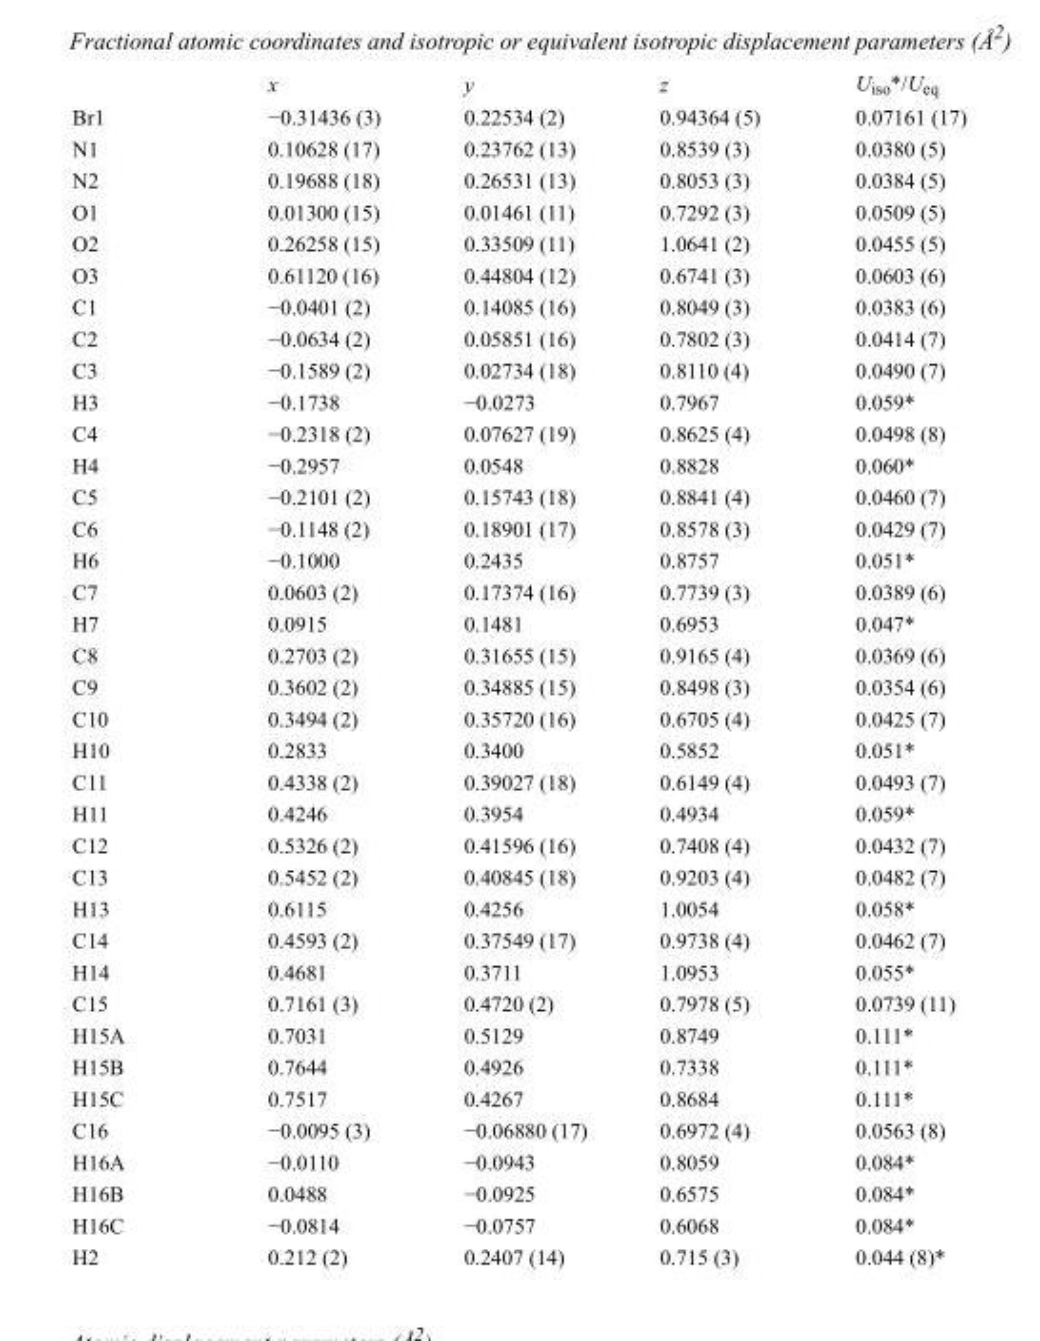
<table><thead><tr><td></td><td>x</td><td>y</td><td>z</td><td>U<sub>iso</sub>*/U<sub>eq</sub></td></tr></thead><tbody><tr><td>Br1</td><td>−0.31436 (3)</td><td>0.22534 (2)</td><td>0.94364 (5)</td><td>0.07161 (17)</td></tr><tr><td>N1</td><td>0.10628 (17)</td><td>0.23762 (13)</td><td>0.8539 (3)</td><td>0.0380 (5)</td></tr><tr><td>N2</td><td>0.19688 (18)</td><td>0.26531 (13)</td><td>0.8053 (3)</td><td>0.0384 (5)</td></tr><tr><td>O1</td><td>0.01300 (15)</td><td>0.01461 (11)</td><td>0.7292 (3)</td><td>0.0509 (5)</td></tr><tr><td>O2</td><td>0.26258 (15)</td><td>0.33509 (11)</td><td>1.0641 (2)</td><td>0.0455 (5)</td></tr><tr><td>O3</td><td>0.61120 (16)</td><td>0.44804 (12)</td><td>0.6741 (3)</td><td>0.0603 (6)</td></tr><tr><td>C1</td><td>−0.0401 (2)</td><td>0.14085 (16)</td><td>0.8049 (3)</td><td>0.0383 (6)</td></tr><tr><td>C2</td><td>−0.0634 (2)</td><td>0.05851 (16)</td><td>0.7802 (3)</td><td>0.0414 (7)</td></tr><tr><td>C3</td><td>−0.1589 (2)</td><td>0.02734 (18)</td><td>0.8110 (4)</td><td>0.0490 (7)</td></tr><tr><td>H3</td><td>−0.1738</td><td>−0.0273</td><td>0.7967</td><td>0.059*</td></tr><tr><td>C4</td><td>−0.2318 (2)</td><td>0.07627 (19)</td><td>0.8625 (4)</td><td>0.0498 (8)</td></tr><tr><td>H4</td><td>−0.2957</td><td>0.0548</td><td>0.8828</td><td>0.060*</td></tr><tr><td>C5</td><td>−0.2101 (2)</td><td>0.15743 (18)</td><td>0.8841 (4)</td><td>0.0460 (7)</td></tr><tr><td>C6</td><td>−0.1148 (2)</td><td>0.18901 (17)</td><td>0.8578 (3)</td><td>0.0429 (7)</td></tr><tr><td>H6</td><td>−0.1000</td><td>0.2435</td><td>0.8757</td><td>0.051*</td></tr><tr><td>C7</td><td>0.0603 (2)</td><td>0.17374 (16)</td><td>0.7739 (3)</td><td>0.0389 (6)</td></tr><tr><td>H7</td><td>0.0915</td><td>0.1481</td><td>0.6953</td><td>0.047*</td></tr><tr><td>C8</td><td>0.2703 (2)</td><td>0.31655 (15)</td><td>0.9165 (4)</td><td>0.0369 (6)</td></tr><tr><td>C9</td><td>0.3602 (2)</td><td>0.34885 (15)</td><td>0.8498 (3)</td><td>0.0354 (6)</td></tr><tr><td>C10</td><td>0.3494 (2)</td><td>0.35720 (16)</td><td>0.6705 (4)</td><td>0.0425 (7)</td></tr><tr><td>H10</td><td>0.2833</td><td>0.3400</td><td>0.5852</td><td>0.051*</td></tr><tr><td>C11</td><td>0.4338 (2)</td><td>0.39027 (18)</td><td>0.6149 (4)</td><td>0.0493 (7)</td></tr><tr><td>H11</td><td>0.4246</td><td>0.3954</td><td>0.4934</td><td>0.059*</td></tr><tr><td>C12</td><td>0.5326 (2)</td><td>0.41596 (16)</td><td>0.7408 (4)</td><td>0.0432 (7)</td></tr><tr><td>C13</td><td>0.5452 (2)</td><td>0.40845 (18)</td><td>0.9203 (4)</td><td>0.0482 (7)</td></tr><tr><td>H13</td><td>0.6115</td><td>0.4256</td><td>1.0054</td><td>0.058*</td></tr><tr><td>C14</td><td>0.4593 (2)</td><td>0.37549 (17)</td><td>0.9738 (4)</td><td>0.0462 (7)</td></tr><tr><td>H14</td><td>0.4681</td><td>0.3711</td><td>1.0953</td><td>0.055*</td></tr><tr><td>C15</td><td>0.7161 (3)</td><td>0.4720 (2)</td><td>0.7978 (5)</td><td>0.0739 (11)</td></tr><tr><td>H15A</td><td>0.7031</td><td>0.5129</td><td>0.8749</td><td>0.111*</td></tr><tr><td>H15B</td><td>0.7644</td><td>0.4926</td><td>0.7338</td><td>0.111*</td></tr><tr><td>H15C</td><td>0.7517</td><td>0.4267</td><td>0.8684</td><td>0.111*</td></tr><tr><td>C16</td><td>−0.0095 (3)</td><td>−0.06880 (17)</td><td>0.6972 (4)</td><td>0.0563 (8)</td></tr><tr><td>H16A</td><td>−0.0110</td><td>−0.0943</td><td>0.8059</td><td>0.084*</td></tr><tr><td>H16B</td><td>0.0488</td><td>−0.0925</td><td>0.6575</td><td>0.084*</td></tr><tr><td>H16C</td><td>−0.0814</td><td>−0.0757</td><td>0.6068</td><td>0.084*</td></tr><tr><td>H2</td><td>0.212 (2)</td><td>0.2407 (14)</td><td>0.715 (3)</td><td>0.044 (8)*</td></tr></tbody></table>